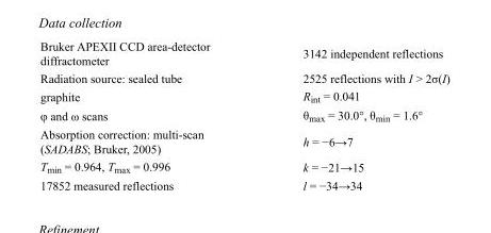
<table><tbody><tr><td>Bruker APEXII CCD area-detector diffractometer</td><td>3142 independent reflections</td></tr><tr><td>Radiation source: sealed tube</td><td>2525 reflections with I &gt; 2σ(I)</td></tr><tr><td>graphite</td><td>R<sub>int</sub> = 0.041</td></tr><tr><td>φ and ω scans</td><td>θ<sub>max</sub> = 30.0°, θ<sub>min</sub> = 1.6°</td></tr><tr><td>Absorption correction: multi-scan (SADABS; Bruker, 2005)</td><td>h = −6→7</td></tr><tr><td>T<sub>min</sub> = 0.964, T<sub>max</sub> = 0.996</td><td>k = −21→15</td></tr><tr><td>17852 measured reflections</td><td>l = −34→34</td></tr></tbody></table>